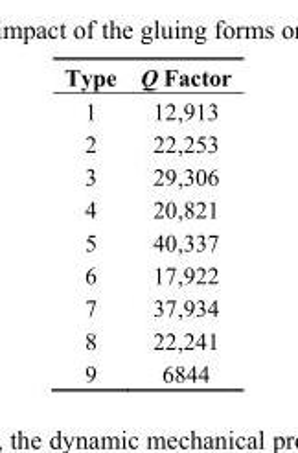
<table><thead><tr><td>Type</td><td>Q Factor</td></tr></thead><tbody><tr><td>1</td><td>12,913</td></tr><tr><td>2</td><td>22,253</td></tr><tr><td>3</td><td>29,306</td></tr><tr><td>4</td><td>20,821</td></tr><tr><td>5</td><td>40,337</td></tr><tr><td>6</td><td>17,922</td></tr><tr><td>7</td><td>37,934</td></tr><tr><td>8</td><td>22,241</td></tr><tr><td>9</td><td>6844</td></tr></tbody></table>